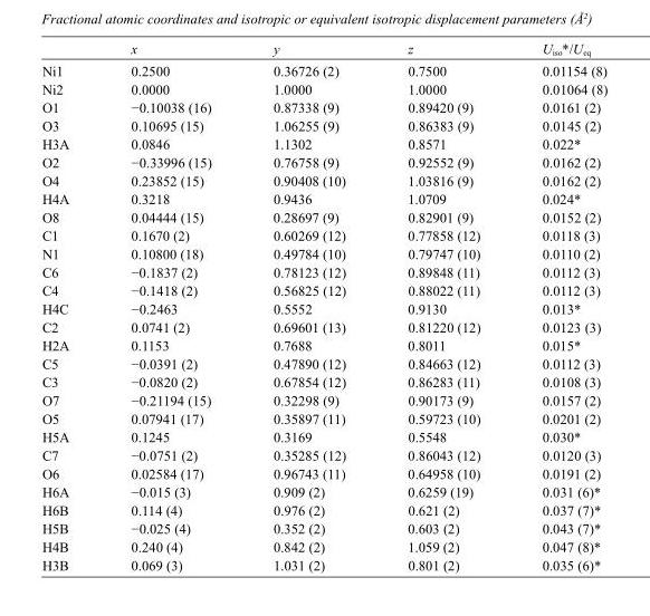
<table><thead><tr><td></td><td>x</td><td>y</td><td>z</td><td>U<sub>iso</sub>*/U<sub>eq</sub></td></tr></thead><tbody><tr><td>Ni1</td><td>0.2500</td><td>0.36726 (2)</td><td>0.7500</td><td>0.01154 (8)</td></tr><tr><td>Ni2</td><td>0.0000</td><td>1.0000</td><td>1.0000</td><td>0.01064 (8)</td></tr><tr><td>O1</td><td>−0.10038 (16)</td><td>0.87338 (9)</td><td>0.89420 (9)</td><td>0.0161 (2)</td></tr><tr><td>O3</td><td>0.10695 (15)</td><td>1.06255 (9)</td><td>0.86383 (9)</td><td>0.0145 (2)</td></tr><tr><td>H3A</td><td>0.0846</td><td>1.1302</td><td>0.8571</td><td>0.022*</td></tr><tr><td>O2</td><td>−0.33996 (15)</td><td>0.76758 (9)</td><td>0.92552 (9)</td><td>0.0162 (2)</td></tr><tr><td>O4</td><td>0.23852 (15)</td><td>0.90408 (10)</td><td>1.03816 (9)</td><td>0.0162 (2)</td></tr><tr><td>H4A</td><td>0.3218</td><td>0.9436</td><td>1.0709</td><td>0.024*</td></tr><tr><td>O8</td><td>0.04444 (15)</td><td>0.28697 (9)</td><td>0.82901 (9)</td><td>0.0152 (2)</td></tr><tr><td>C1</td><td>0.1670 (2)</td><td>0.60269 (12)</td><td>0.77858 (12)</td><td>0.0118 (3)</td></tr><tr><td>N1</td><td>0.10800 (18)</td><td>0.49784 (10)</td><td>0.79747 (10)</td><td>0.0110 (2)</td></tr><tr><td>C6</td><td>−0.1837 (2)</td><td>0.78123 (12)</td><td>0.89848 (11)</td><td>0.0112 (3)</td></tr><tr><td>C4</td><td>−0.1418 (2)</td><td>0.56825 (12)</td><td>0.88022 (11)</td><td>0.0112 (3)</td></tr><tr><td>H4C</td><td>−0.2463</td><td>0.5552</td><td>0.9130</td><td>0.013*</td></tr><tr><td>C2</td><td>0.0741 (2)</td><td>0.69601 (13)</td><td>0.81220 (12)</td><td>0.0123 (3)</td></tr><tr><td>H2A</td><td>0.1153</td><td>0.7688</td><td>0.8011</td><td>0.015*</td></tr><tr><td>C5</td><td>−0.0391 (2)</td><td>0.47890 (12)</td><td>0.84663 (12)</td><td>0.0112 (3)</td></tr><tr><td>C3</td><td>−0.0820 (2)</td><td>0.67854 (12)</td><td>0.86283 (11)</td><td>0.0108 (3)</td></tr><tr><td>O7</td><td>−0.21194 (15)</td><td>0.32298 (9)</td><td>0.90173 (9)</td><td>0.0157 (2)</td></tr><tr><td>O5</td><td>0.07941 (17)</td><td>0.35897 (11)</td><td>0.59723 (10)</td><td>0.0201 (2)</td></tr><tr><td>H5A</td><td>0.1245</td><td>0.3169</td><td>0.5548</td><td>0.030*</td></tr><tr><td>C7</td><td>−0.0751 (2)</td><td>0.35285 (12)</td><td>0.86043 (12)</td><td>0.0120 (3)</td></tr><tr><td>O6</td><td>0.02584 (17)</td><td>0.96743 (11)</td><td>0.64958 (10)</td><td>0.0191 (2)</td></tr><tr><td>H6A</td><td>−0.015 (3)</td><td>0.909 (2)</td><td>0.6259 (19)</td><td>0.031 (6)*</td></tr><tr><td>H6B</td><td>0.114 (4)</td><td>0.976 (2)</td><td>0.621 (2)</td><td>0.037 (7)*</td></tr><tr><td>H5B</td><td>−0.025 (4)</td><td>0.352 (2)</td><td>0.603 (2)</td><td>0.043 (7)*</td></tr><tr><td>H4B</td><td>0.240 (4)</td><td>0.842 (2)</td><td>1.059 (2)</td><td>0.047 (8)*</td></tr><tr><td>H3B</td><td>0.069 (3)</td><td>1.031 (2)</td><td>0.801 (2)</td><td>0.035 (6)*</td></tr></tbody></table>